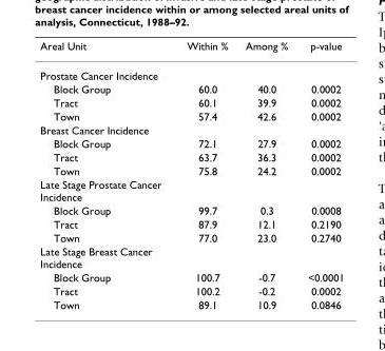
<table><thead><tr><td>Areal Unit</td><td>Within %</td><td>Among %</td><td>p-value</td></tr></thead><tbody><tr><td colspan="4">Prostate Cancer Incidence</td></tr><tr><td>Block Group</td><td>60.0</td><td>40.0</td><td>0.0002</td></tr><tr><td>Tract</td><td>60.1</td><td>39.9</td><td>0.0002</td></tr><tr><td>Town</td><td>57.4</td><td>42.6</td><td>0.0002</td></tr><tr><td colspan="4">Breast Cancer Incidence</td></tr><tr><td>Block Group</td><td>72.1</td><td>27.9</td><td>0.0002</td></tr><tr><td>Tract</td><td>63.7</td><td>36.3</td><td>0.0002</td></tr><tr><td>Town</td><td>75.8</td><td>24.2</td><td>0.0002</td></tr><tr><td colspan="4">Late Stage Prostate Cancer Incidence</td></tr><tr><td>Block Group</td><td>99.7</td><td>0.3</td><td>0.0008</td></tr><tr><td>Tract</td><td>87.9</td><td>12.1</td><td>0.2190</td></tr><tr><td>Town</td><td>77.0</td><td>23.0</td><td>0.2740</td></tr><tr><td colspan="4">Late Stage Breast Cancer Incidence</td></tr><tr><td>Block Group</td><td>100.7</td><td>-0.7</td><td>&lt;0.0001</td></tr><tr><td>Tract</td><td>100.2</td><td>-0.2</td><td>0.0002</td></tr><tr><td>Town</td><td>89.1</td><td>10.9</td><td>0.0846</td></tr></tbody></table>